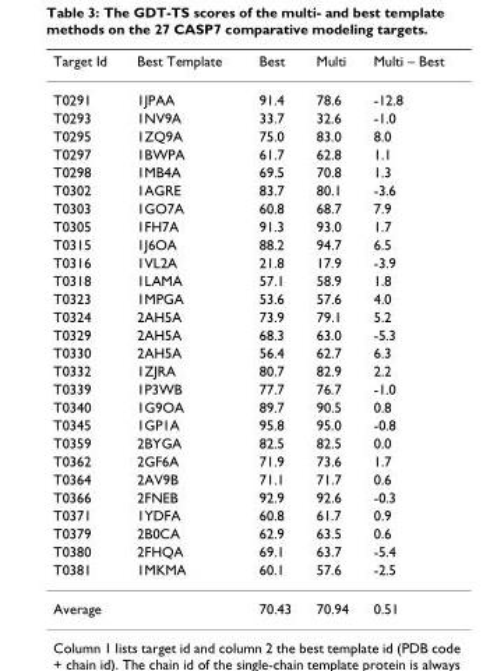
<table><thead><tr><td>Target Id</td><td>Best Template</td><td>Best</td><td>Multi</td><td>Multi – Best</td></tr></thead><tbody><tr><td>T0291</td><td>1JPAA</td><td>91.4</td><td>78.6</td><td>-12.8</td></tr><tr><td>T0293</td><td>1NV9A</td><td>33.7</td><td>32.6</td><td>-1.0</td></tr><tr><td>T0295</td><td>1ZQ9A</td><td>75.0</td><td>83.0</td><td>8.0</td></tr><tr><td>T0297</td><td>1BWPA</td><td>61.7</td><td>62.8</td><td>1.1</td></tr><tr><td>T0298</td><td>1MB4A</td><td>69.5</td><td>70.8</td><td>1.3</td></tr><tr><td>T0302</td><td>1AGRE</td><td>83.7</td><td>80.1</td><td>-3.6</td></tr><tr><td>T0303</td><td>1GO7A</td><td>60.8</td><td>68.7</td><td>7.9</td></tr><tr><td>T0305</td><td>1FH7A</td><td>91.3</td><td>93.0</td><td>1.7</td></tr><tr><td>T0315</td><td>1J6OA</td><td>88.2</td><td>94.7</td><td>6.5</td></tr><tr><td>T0316</td><td>1VL2A</td><td>21.8</td><td>17.9</td><td>-3.9</td></tr><tr><td>T0318</td><td>1LAMA</td><td>57.1</td><td>58.9</td><td>1.8</td></tr><tr><td>T0323</td><td>1MPGA</td><td>53.6</td><td>57.6</td><td>4.0</td></tr><tr><td>T0324</td><td>2AH5A</td><td>73.9</td><td>79.1</td><td>5.2</td></tr><tr><td>T0329</td><td>2AH5A</td><td>68.3</td><td>63.0</td><td>-5.3</td></tr><tr><td>T0330</td><td>2AH5A</td><td>56.4</td><td>62.7</td><td>6.3</td></tr><tr><td>T0332</td><td>1ZJRA</td><td>80.7</td><td>82.9</td><td>2.2</td></tr><tr><td>T0339</td><td>1P3WB</td><td>77.7</td><td>76.7</td><td>-1.0</td></tr><tr><td>T0340</td><td>1G9OA</td><td>89.7</td><td>90.5</td><td>0.8</td></tr><tr><td>T0345</td><td>1GP1A</td><td>95.8</td><td>95.0</td><td>-0.8</td></tr><tr><td>T0359</td><td>2BYGA</td><td>82.5</td><td>82.5</td><td>0.0</td></tr><tr><td>T0362</td><td>2GF6A</td><td>71.9</td><td>73.6</td><td>1.7</td></tr><tr><td>T0364</td><td>2AV9B</td><td>71.1</td><td>71.7</td><td>0.6</td></tr><tr><td>T0366</td><td>2FNEB</td><td>92.9</td><td>92.6</td><td>-0.3</td></tr><tr><td>T0371</td><td>1YDFA</td><td>60.8</td><td>61.7</td><td>0.9</td></tr><tr><td>T0379</td><td>2B0CA</td><td>62.9</td><td>63.5</td><td>0.6</td></tr><tr><td>T0380</td><td>2FHQA</td><td>69.1</td><td>63.7</td><td>-5.4</td></tr><tr><td>T0381</td><td>1MKMA</td><td>60.1</td><td>57.6</td><td>-2.5</td></tr><tr><td>Average</td><td></td><td>70.43</td><td>70.94</td><td>0.51</td></tr></tbody></table>